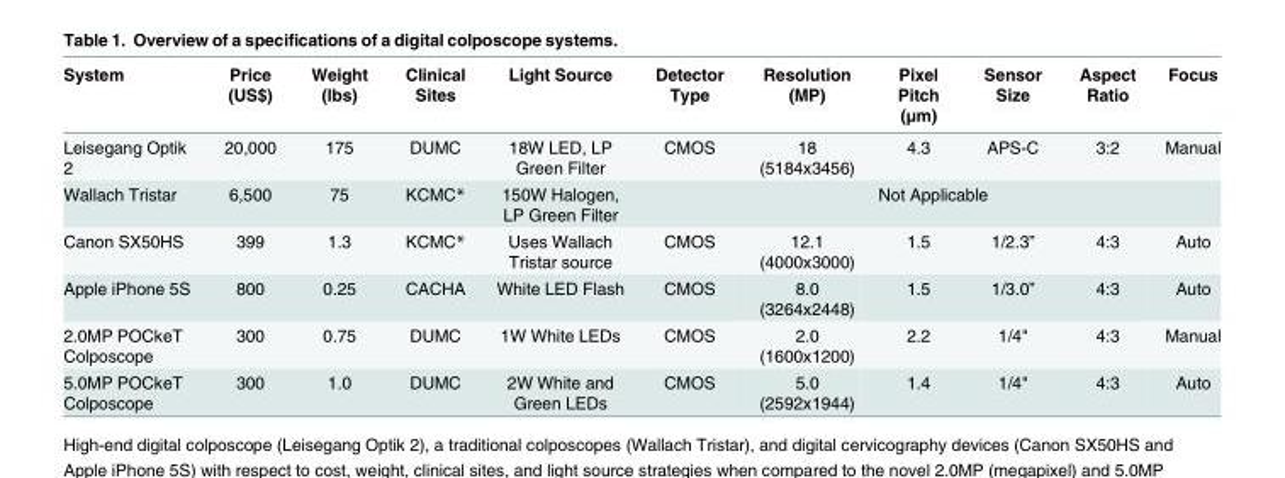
<table><thead><tr><td>System</td><td>Price (US$)</td><td>Weight (lbs)</td><td>Clinical Sites</td><td>Light Source</td><td>Detector Type</td><td>Resolution (MP)</td><td>Pixel Pitch (μm)</td><td>Sensor Size</td><td>Aspect Ratio</td><td>Focus</td></tr></thead><tbody><tr><td>Leisegang Optik 2</td><td>20,000</td><td>175</td><td>DUMC</td><td>18W LED, LP Green Filter</td><td>CMOS</td><td>18 (5184x3456)</td><td>4.3</td><td>APS-C</td><td>3:2</td><td>Manual</td></tr><tr><td>Wallach Tristar</td><td>6,500</td><td>75</td><td>KCMC*</td><td>150W Halogen, LP Green Filter</td><td colspan="6">Not Applicable</td></tr><tr><td>Canon SX50HS</td><td>399</td><td>1.3</td><td>KCMC*</td><td>Uses Wallach Tristar source</td><td>CMOS</td><td>12.1 (4000x3000)</td><td>1.5</td><td>1/2.3”</td><td>4:3</td><td>Auto</td></tr><tr><td>Apple iPhone 5S</td><td>800</td><td>0.25</td><td>CACHA</td><td>White LED Flash</td><td>CMOS</td><td>8.0 (3264x2448)</td><td>1.5</td><td>1/3.0”</td><td>4:3</td><td>Auto</td></tr><tr><td>2.0MP POCkeT Colposcope</td><td>300</td><td>0.75</td><td>DUMC</td><td>1W White LEDs</td><td>CMOS</td><td>2.0 (1600x1200)</td><td>2.2</td><td>1/4&quot;</td><td>4:3</td><td>Manual</td></tr><tr><td>5.0MP POCkeT Colposcope</td><td>300</td><td>1.0</td><td>DUMC</td><td>2W White and Green LEDs</td><td>CMOS</td><td>5.0 (2592x1944)</td><td>1.4</td><td>1/4&quot;</td><td>4:3</td><td>Auto</td></tr></tbody></table>